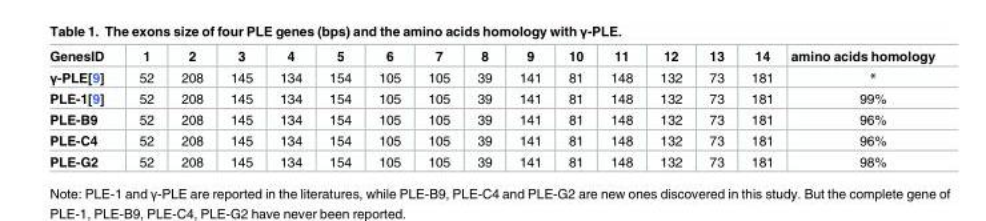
<table><thead><tr><td>GenesID</td><td>1</td><td>2</td><td>3</td><td>4</td><td>5</td><td>6</td><td>7</td><td>8</td><td>9</td><td>10</td><td>11</td><td>12</td><td>13</td><td>14</td><td>amino acids homology</td></tr></thead><tbody><tr><td>γ-PLE[9]</td><td>52</td><td>208</td><td>145</td><td>134</td><td>154</td><td>105</td><td>105</td><td>39</td><td>141</td><td>81</td><td>148</td><td>132</td><td>73</td><td>181</td><td>*</td></tr><tr><td>PLE-1[9]</td><td>52</td><td>208</td><td>145</td><td>134</td><td>154</td><td>105</td><td>105</td><td>39</td><td>141</td><td>81</td><td>148</td><td>132</td><td>73</td><td>181</td><td>99%</td></tr><tr><td>PLE-B9</td><td>52</td><td>208</td><td>145</td><td>134</td><td>154</td><td>105</td><td>105</td><td>39</td><td>141</td><td>81</td><td>148</td><td>132</td><td>73</td><td>181</td><td>96%</td></tr><tr><td>PLE-C4</td><td>52</td><td>208</td><td>145</td><td>134</td><td>154</td><td>105</td><td>105</td><td>39</td><td>141</td><td>81</td><td>148</td><td>132</td><td>73</td><td>181</td><td>96%</td></tr><tr><td>PLE-G2</td><td>52</td><td>208</td><td>145</td><td>134</td><td>154</td><td>105</td><td>105</td><td>39</td><td>141</td><td>81</td><td>148</td><td>132</td><td>73</td><td>181</td><td>98%</td></tr></tbody></table>